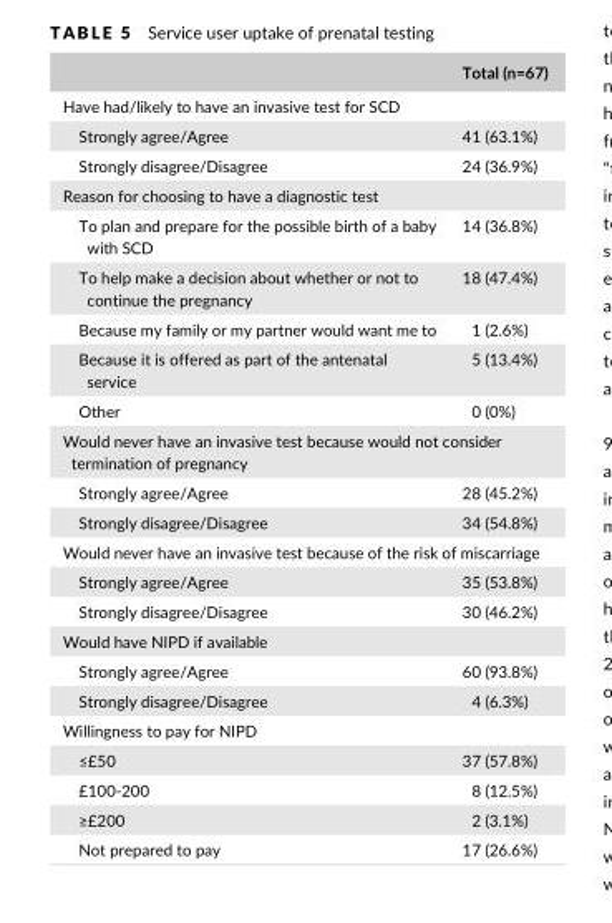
<table><thead><tr><td></td><td>Total (n=67)</td></tr></thead><tbody><tr><td colspan="2">Have had/likely to have an invasive test for SCD</td></tr><tr><td>Strongly agree/Agree</td><td>41 (63.1%)</td></tr><tr><td>Strongly disagree/Disagree</td><td>24 (36.9%)</td></tr><tr><td colspan="2">Reason for choosing to have a diagnostic test</td></tr><tr><td>To plan and prepare for the possible birth of a baby with SCD</td><td>14 (36.8%)</td></tr><tr><td>To help make a decision about whether or not to continue the pregnancy</td><td>18 (47.4%)</td></tr><tr><td>Because my family or my partner would want me to</td><td>1 (2.6%)</td></tr><tr><td>Because it is offered as part of the antenatal service</td><td>5 (13.4%)</td></tr><tr><td>Other</td><td>0 (0%)</td></tr><tr><td colspan="2">Would never have an invasive test because would not consider termination of pregnancy</td></tr><tr><td>Strongly agree/Agree</td><td>28 (45.2%)</td></tr><tr><td>Strongly disagree/Disagree</td><td>34 (54.8%)</td></tr><tr><td colspan="2">Would never have an invasive test because of the risk of miscarriage</td></tr><tr><td>Strongly agree/Agree</td><td>35 (53.8%)</td></tr><tr><td>Strongly disagree/Disagree</td><td>30 (46.2%)</td></tr><tr><td colspan="2">Would have NIPD if available</td></tr><tr><td>Strongly agree/Agree</td><td>60 (93.8%)</td></tr><tr><td>Strongly disagree/Disagree</td><td>4 (6.3%)</td></tr><tr><td colspan="2">Willingness to pay for NIPD</td></tr><tr><td>≤£50</td><td>37 (57.8%)</td></tr><tr><td>£100- 200</td><td>8 (12.5%)</td></tr><tr><td>≥£200</td><td>2 (3.1%)</td></tr><tr><td>Not prepared to pay</td><td>17 (26.6%)</td></tr></tbody></table>